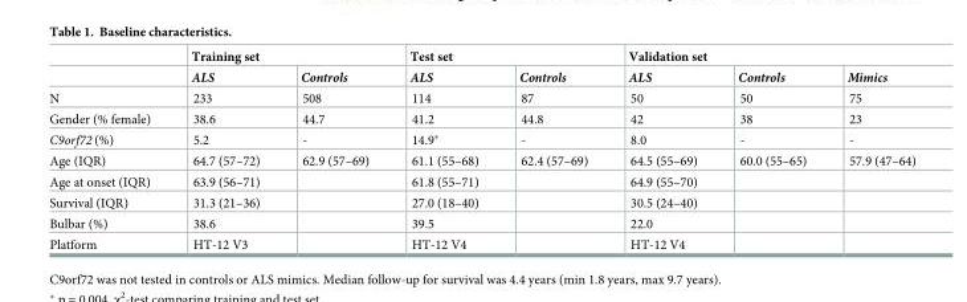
<table><thead><tr><td rowspan="2"></td><td colspan="2">Training set</td><td colspan="2">Test set</td><td colspan="3">Validation set</td></tr><tr><td>ALS</td><td>Controls</td><td>ALS</td><td>Controls</td><td>ALS</td><td>Controls</td><td>Mimics</td></tr></thead><tbody><tr><td>N</td><td>233</td><td>508</td><td>114</td><td>87</td><td>50</td><td>50</td><td>75</td></tr><tr><td>Gender (% female)</td><td>38.6</td><td>44.7</td><td>41.2</td><td>44.8</td><td>42</td><td>38</td><td>23</td></tr><tr><td>C9orf72 (%)</td><td>5.2</td><td>-</td><td>14.9*</td><td>-</td><td>8.0</td><td>-</td><td>-</td></tr><tr><td>Age (IQR)</td><td>64.7 (57–72)</td><td>62.9 (57–69)</td><td>61.1 (55–68)</td><td>62.4 (57–69)</td><td>64.5 (55–69)</td><td>60.0 (55–65)</td><td>57.9 (47–64)</td></tr><tr><td>Age at onset (IQR)</td><td>63.9 (56–71)</td><td></td><td>61.8 (55–71)</td><td></td><td>64.9 (55–70)</td><td></td><td></td></tr><tr><td>Survival (IQR)</td><td>31.3 (21–36)</td><td></td><td>27.0 (18–40)</td><td></td><td>30.5 (24–40)</td><td></td><td></td></tr><tr><td>Bulbar (%)</td><td>38.6</td><td></td><td>39.5</td><td></td><td>22.0</td><td></td><td></td></tr><tr><td>Platform</td><td>HT-12 V3</td><td></td><td>HT-12 V4</td><td></td><td>HT-12 V4</td><td></td><td></td></tr></tbody></table>